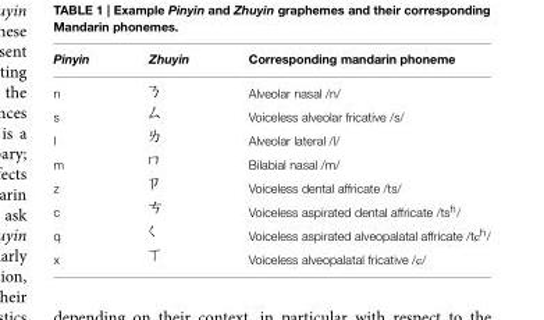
<table><thead><tr><td>Pinyin</td><td>Zhuyin</td><td>Corresponding mandarin phoneme</td></tr></thead><tbody><tr><td>n</td><td></td><td>Alveolar nasal /n/</td></tr><tr><td>s</td><td></td><td>Voiceless alveolar fricative /s/</td></tr><tr><td>l</td><td></td><td>Alveolar lateral /l/</td></tr><tr><td>m</td><td></td><td>Bilabial nasal /m/</td></tr><tr><td>z</td><td></td><td>Voiceless dental affricate /ts/</td></tr><tr><td>c</td><td></td><td>Voiceless aspirated dental affricate /ts<sup>h</sup>/</td></tr><tr><td>q</td><td></td><td>Voiceless aspirated alveopalatal affricate /tCh/</td></tr><tr><td>x</td><td></td><td>Voiceless alveopalatal fricative /C/</td></tr></tbody></table>